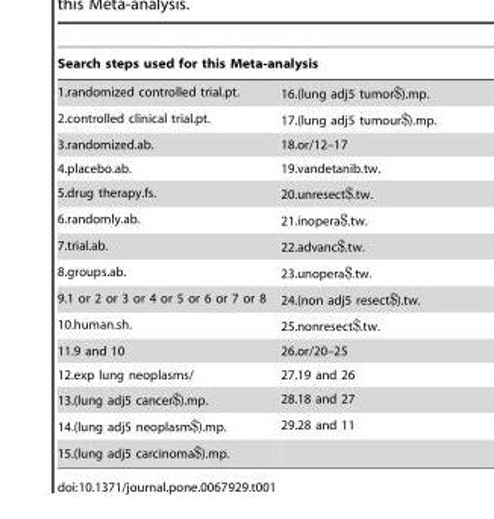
<table><thead><tr><td colspan="2">Search steps used for this Meta-analysis</td></tr><tr><td>1.randomized controlled trial.pt.</td><td>16.(lung adj5 tumor$).mp.</td></tr></thead><tbody><tr><td>2.controlled clinical trial.pt.</td><td>17.(lung adj5 tumour$).mp.</td></tr><tr><td>3.randomized.ab.</td><td>18.or/12–17</td></tr><tr><td>4.placebo.ab.</td><td>19.vandetanib.tw.</td></tr><tr><td>5.drug therapy.fs.</td><td>20.unresect$.tw.</td></tr><tr><td>6.randomly.ab.</td><td>21.inopera$.tw.</td></tr><tr><td>7.trial.ab.</td><td>22.advanc$.tw.</td></tr><tr><td>8.groups.ab.</td><td>23.unopera$.tw.</td></tr><tr><td>9.1 or 2 or 3 or 4 or 5 or 6 or 7 or 8</td><td>24.(non adj5 resect$).tw.</td></tr><tr><td>10.human.sh.</td><td>25.nonresect$.tw.</td></tr><tr><td>11.9 and 10</td><td>26.or/20–25</td></tr><tr><td>12.exp lung neoplasms/</td><td>27.19 and 26</td></tr><tr><td>13.(lung adj5 cancer$).mp.</td><td>28.18 and 27</td></tr><tr><td>14.(lung adj5 neoplasm$).mp.</td><td>29.28 and 11</td></tr><tr><td>15.(lung adj5 carcinoma$).mp.</td><td></td></tr></tbody></table>